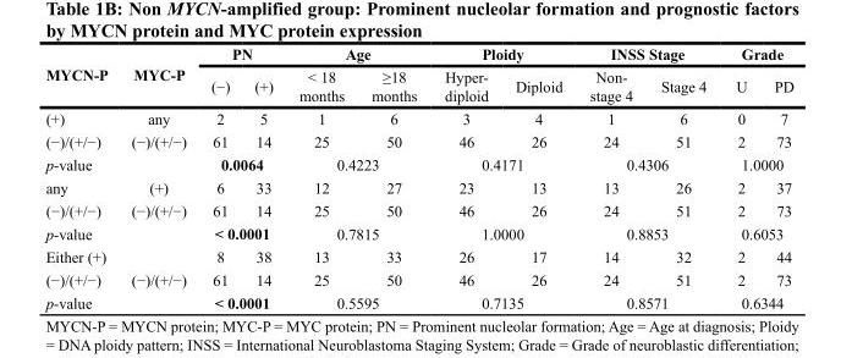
<table><thead><tr><td rowspan="2">MYCN-P</td><td rowspan="2">MYC-P</td><td colspan="2">PN</td><td colspan="2">Age</td><td colspan="2">Ploidy</td><td colspan="2">INSS Stage</td><td colspan="2">Grade</td></tr><tr><td>(−)</td><td>(+)</td><td>&lt; 18 months</td><td>≥18 months</td><td>Hyper- diploid</td><td>Diploid</td><td>Non- stage 4</td><td>Stage 4</td><td>U</td><td>PD</td></tr></thead><tbody><tr><td>(+)</td><td>any</td><td>2</td><td>5</td><td>1</td><td>6</td><td>3</td><td>4</td><td>1</td><td>6</td><td>0</td><td>7</td></tr><tr><td>(−)/(+/−)</td><td>(−)/(+/−)</td><td>61</td><td>14</td><td>25</td><td>50</td><td>46</td><td>26</td><td>24</td><td>51</td><td>2</td><td>73</td></tr><tr><td colspan="2">p-value</td><td colspan="2">0.0064</td><td colspan="2">0.4223</td><td colspan="2">0.4171</td><td colspan="2">0.4306</td><td colspan="2">1.0000</td></tr><tr><td>any</td><td>(+)</td><td>6</td><td>33</td><td>12</td><td>27</td><td>23</td><td>13</td><td>13</td><td>26</td><td>2</td><td>37</td></tr><tr><td>(−)/(+/−)</td><td>(−)/(+/−)</td><td>61</td><td>14</td><td>25</td><td>50</td><td>46</td><td>26</td><td>24</td><td>51</td><td>2</td><td>73</td></tr><tr><td colspan="2">p-value</td><td colspan="2">&lt; 0.0001</td><td colspan="2">0.7815</td><td colspan="2">1.0000</td><td colspan="2">0.8853</td><td colspan="2">0.6053</td></tr><tr><td colspan="2">Either (+)</td><td>8</td><td>38</td><td>13</td><td>33</td><td>26</td><td>17</td><td>14</td><td>32</td><td>2</td><td>44</td></tr><tr><td>(−)/(+/−)</td><td>(−)/(+/−)</td><td>61</td><td>14</td><td>25</td><td>50</td><td>46</td><td>26</td><td>24</td><td>51</td><td>2</td><td>73</td></tr><tr><td colspan="2">p-value</td><td colspan="2">&lt; 0.0001</td><td colspan="2">0.5595</td><td colspan="2">0.7135</td><td colspan="2">0.8571</td><td colspan="2">0.6344</td></tr></tbody></table>